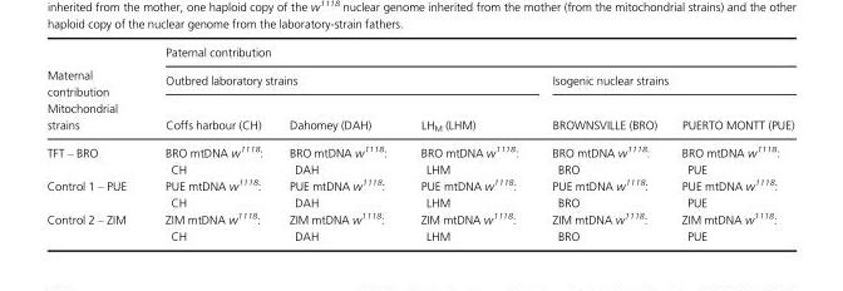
<table><thead><tr><td rowspan="3">Maternal contribution Mitochondrial strains</td><td colspan="5">Paternal contribution</td></tr><tr><td colspan="3">Outbred laboratory strains</td><td colspan="2">Isogenic nuclear strains</td></tr><tr><td>Coffs harbour (CH)</td><td>Dahomey (DAH)</td><td>LH<sub>M</sub> (LHM)</td><td>BROWNSVILLE (BRO)</td><td>PUERTO MONTT (PUE)</td></tr></thead><tbody><tr><td>TFT – BRO</td><td>BRO mtDNA w<sup>1118</sup>: CH</td><td>BRO mtDNA w<sup>1118</sup>: DAH</td><td>BRO mtDNA w<sup>1118</sup>: LHM</td><td>BRO mtDNA w<sup>1118</sup>: BRO</td><td>BRO mtDNA w<sup>1118</sup>: PUE</td></tr><tr><td>Control 1 – PUE</td><td>PUE mtDNA w<sup>1118</sup>: CH</td><td>PUE mtDNA w<sup>1118</sup>: DAH</td><td>PUE mtDNA w<sup>1118</sup>: LHM</td><td>PUE mtDNA w<sup>1118</sup>: BRO</td><td>PUE mtDNA w<sup>1118</sup>: PUE</td></tr><tr><td>Control 2 – ZIM</td><td>ZIM mtDNA w<sup>1118</sup>: CH</td><td>ZIM mtDNA w<sup>1118</sup>: DAH</td><td>ZIM mtDNA w<sup>1118</sup>: LHM</td><td>ZIM mtDNA w<sup>1118</sup>: BRO</td><td>ZIM mtDNA w<sup>1118</sup>: PUE</td></tr></tbody></table>